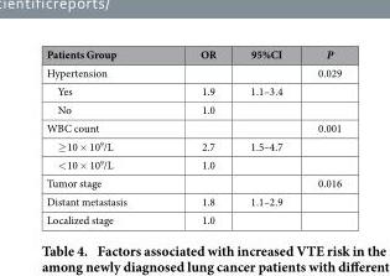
<table><thead><tr><td>Patients Group</td><td>OR</td><td>95%CI</td><td>P</td></tr></thead><tbody><tr><td>Hypertension</td><td></td><td></td><td>0.029</td></tr><tr><td>Yes</td><td>1.9</td><td>1.1–3.4</td><td></td></tr><tr><td>No</td><td>1.0</td><td></td><td></td></tr><tr><td>WBC count</td><td></td><td></td><td>0.001</td></tr><tr><td>≥ 10 × 10<sup>9</sup>/L</td><td>2.7</td><td>1.5–4.7</td><td></td></tr><tr><td>&lt; 10 × 10<sup>9</sup>/L</td><td>1.0</td><td></td><td></td></tr><tr><td>Tumor stage</td><td></td><td></td><td>0.016</td></tr><tr><td>Distant metastasis</td><td>1.8</td><td>1.1–2.9</td><td></td></tr><tr><td>Localized stage</td><td>1.0</td><td></td><td></td></tr></tbody></table>